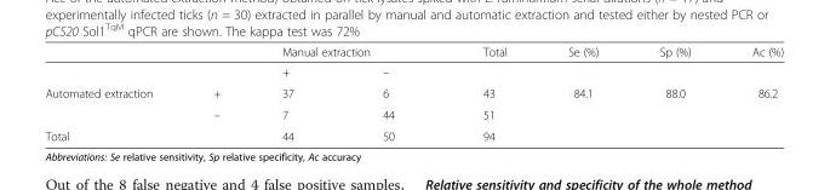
<table><thead><tr><td rowspan="2"></td><td rowspan="2"></td><td colspan="2">Manual extraction</td><td rowspan="2">Total</td><td rowspan="2">Se (%)</td><td rowspan="2">Sp (%)</td><td rowspan="2">Ac (%)</td></tr><tr><td>+</td><td>–</td></tr></thead><tbody><tr><td rowspan="2">Automated extraction</td><td>+</td><td>37</td><td>6</td><td>43</td><td>84.1</td><td>88.0</td><td>86.2</td></tr><tr><td>–</td><td>7</td><td>44</td><td>51</td><td></td><td></td><td></td></tr><tr><td colspan="2">Total</td><td>44</td><td>50</td><td>94</td><td></td><td></td><td></td></tr></tbody></table>